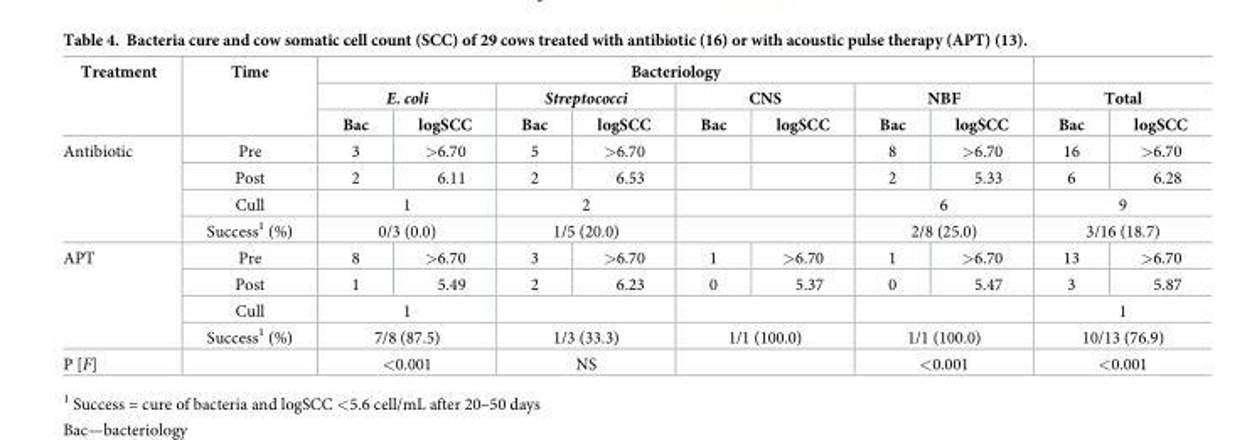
<table><thead><tr><td rowspan="3">Treatment</td><td rowspan="3">Time</td><td colspan="8">Bacteriology</td><td></td><td></td></tr><tr><td colspan="2">E. coli</td><td colspan="2">Streptococci</td><td colspan="2">CNS</td><td colspan="2">NBF</td><td colspan="2">Total</td></tr><tr><td>Bac</td><td>logSCC</td><td>Bac</td><td>logSCC</td><td>Bac</td><td>logSCC</td><td>Bac</td><td>logSCC</td><td>Bac</td><td>logSCC</td></tr></thead><tbody><tr><td rowspan="4">Antibiotic</td><td>Pre</td><td>3</td><td>&gt;6.70</td><td>5</td><td>&gt;6.70</td><td></td><td></td><td>8</td><td>&gt;6.70</td><td>16</td><td>&gt;6.70</td></tr><tr><td>Post</td><td>2</td><td>6.11</td><td>2</td><td>6.53</td><td></td><td></td><td>2</td><td>5.33</td><td>6</td><td>6.28</td></tr><tr><td>Cull</td><td colspan="2">1</td><td colspan="2">2</td><td colspan="2"></td><td colspan="2">6</td><td colspan="2">9</td></tr><tr><td>Success<sup>1</sup> (%)</td><td colspan="2">0/3 (0.0)</td><td colspan="2">1/5 (20.0)</td><td colspan="2"></td><td colspan="2">2/8 (25.0)</td><td colspan="2">3/16 (18.7)</td></tr><tr><td rowspan="4">APT</td><td>Pre</td><td>8</td><td>&gt;6.70</td><td>3</td><td>&gt;6.70</td><td>1</td><td>&gt;6.70</td><td>1</td><td>&gt;6.70</td><td>13</td><td>&gt;6.70</td></tr><tr><td>Post</td><td>1</td><td>5.49</td><td>2</td><td>6.23</td><td>0</td><td>5.37</td><td>0</td><td>5.47</td><td>3</td><td>5.87</td></tr><tr><td>Cull</td><td colspan="2">1</td><td colspan="2"></td><td colspan="2"></td><td colspan="2"></td><td colspan="2">1</td></tr><tr><td>Success<sup>1</sup> (%)</td><td colspan="2">7/8 (87.5)</td><td colspan="2">1/3 (33.3)</td><td colspan="2">1/1 (100.0)</td><td colspan="2">1/1 (100.0)</td><td colspan="2">10/13 (76.9)</td></tr><tr><td>P [F]</td><td></td><td colspan="2">&lt;0.001</td><td colspan="2">NS</td><td colspan="2"></td><td colspan="2">&lt;0.001</td><td colspan="2">&lt;0.001</td></tr></tbody></table>